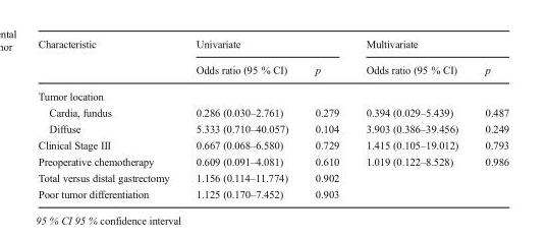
<table><thead><tr><td rowspan="2">Characteristic</td><td colspan="2">Univariate</td><td colspan="2">Multivariate</td></tr><tr><td>Odds ratio (95 % CI)</td><td>p</td><td>Odds ratio (95 % CI)</td><td>p</td></tr></thead><tbody><tr><td colspan="5">Tumor location</td></tr><tr><td>Cardia, fundus</td><td>0.286 (0.030–2.761)</td><td>0.279</td><td>0.394 (0.029–5.439)</td><td>0.487</td></tr><tr><td>Diffuse</td><td>5.333 (0.710–40.057)</td><td>0.104</td><td>3.903 (0.386–39.456)</td><td>0.249</td></tr><tr><td>Clinical Stage III</td><td>0.667 (0.068–6.580)</td><td>0.729</td><td>1.415 (0.105–19.012)</td><td>0.793</td></tr><tr><td>Preoperative chemotherapy</td><td>0.609 (0.091–4.081)</td><td>0.610</td><td>1.019 (0.122–8.528)</td><td>0.986</td></tr><tr><td>Total versus distal gastrectomy</td><td>1.156 (0.114–11.774)</td><td>0.902</td><td></td><td></td></tr><tr><td>Poor tumor differentiation</td><td>1.125 (0.170–7.452)</td><td>0.903</td><td></td><td></td></tr></tbody></table>